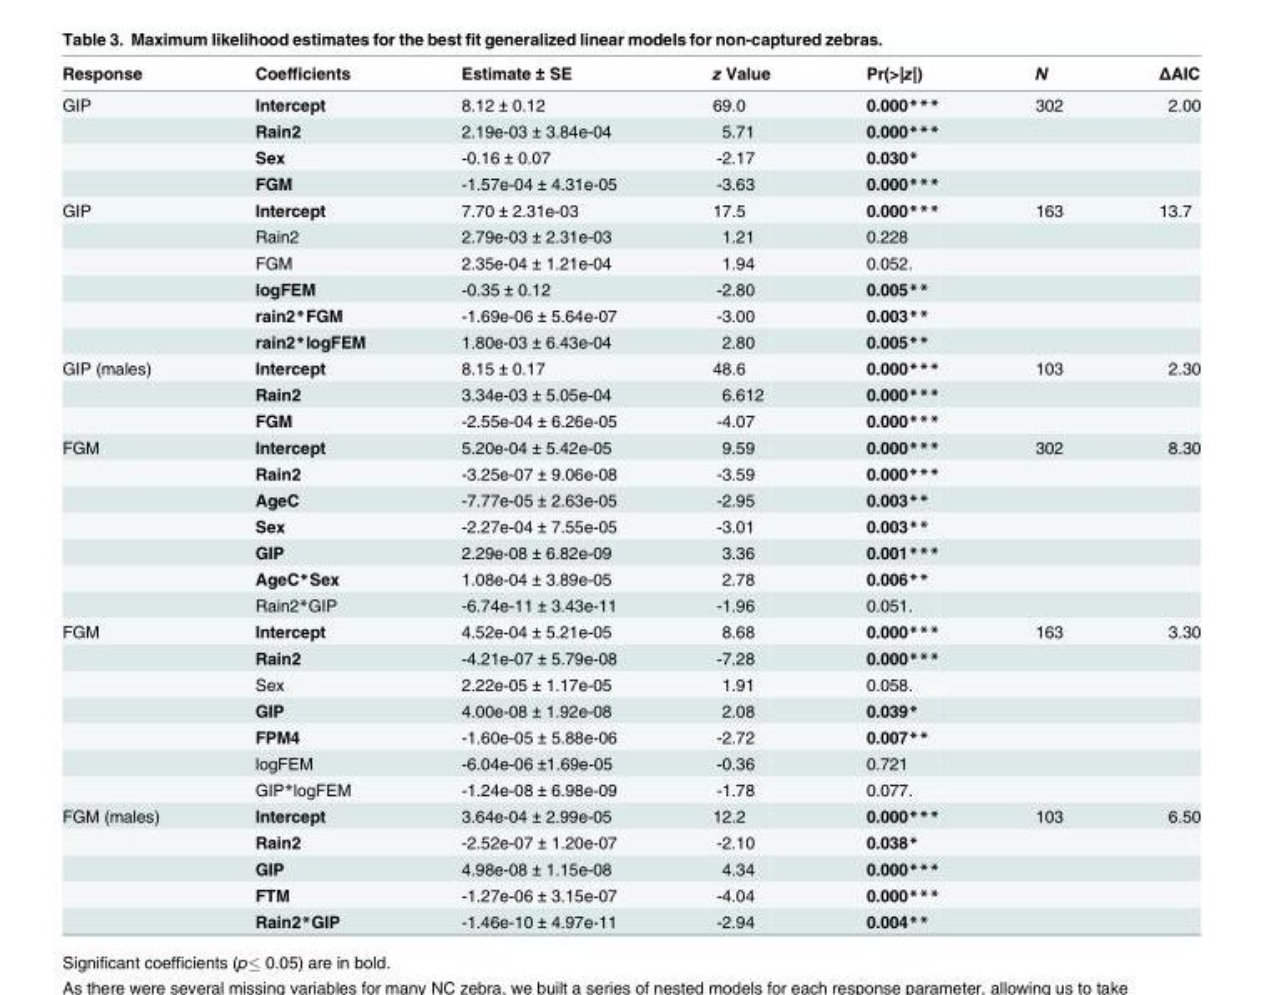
<table><thead><tr><td>Response</td><td>Coefficients</td><td>Estimate ± SE</td><td>z Value</td><td>Pr(&gt;|z|)</td><td>N</td><td>ΔAIC</td></tr></thead><tbody><tr><td rowspan="4">GIP</td><td>Intercept</td><td>8.12 ± 0.12</td><td>69.0</td><td>0.000***</td><td>302</td><td>2.00</td></tr><tr><td>Rain2</td><td>2.19e-03 ± 3.84e-04</td><td>5.71</td><td>0.000***</td><td></td><td></td></tr><tr><td>Sex</td><td>-0.16 ± 0.07</td><td>-2.17</td><td>0.030*</td><td></td><td></td></tr><tr><td>FGM</td><td>-1.57e-04 ± 4.31e-05</td><td>-3.63</td><td>0.000***</td><td></td><td></td></tr><tr><td rowspan="6">GIP</td><td>Intercept</td><td>7.70 ± 2.31e-03</td><td>17.5</td><td>0.000***</td><td>163</td><td>13.7</td></tr><tr><td>Rain2</td><td>2.79e-03 ± 2.31e-03</td><td>1.21</td><td>0.228</td><td></td><td></td></tr><tr><td>FGM</td><td>2.35e-04 ± 1.21e-04</td><td>1.94</td><td>0.052.</td><td></td><td></td></tr><tr><td>logFEM</td><td>-0.35 ± 0.12</td><td>-2.80</td><td>0.005**</td><td></td><td></td></tr><tr><td>rain2*FGM</td><td>-1.69e-06 ± 5.64e-07</td><td>-3.00</td><td>0.003**</td><td></td><td></td></tr><tr><td>rain2*logFEM</td><td>1.80e-03 ± 6.43e-04</td><td>2.80</td><td>0.005**</td><td></td><td></td></tr><tr><td rowspan="3">GIP (males)</td><td>Intercept</td><td>8.15 ± 0.17</td><td>48.6</td><td>0.000***</td><td>103</td><td>2.30</td></tr><tr><td>Rain2</td><td>3.34e-03 ± 5.05e-04</td><td>6.612</td><td>0.000***</td><td></td><td></td></tr><tr><td>FGM</td><td>-2.55e-04 ± 6.26e-05</td><td>-4.07</td><td>0.000***</td><td></td><td></td></tr><tr><td rowspan="7">FGM</td><td>Intercept</td><td>5.20e-04 ± 5.42e-05</td><td>9.59</td><td>0.000***</td><td>302</td><td>8.30</td></tr><tr><td>Rain2</td><td>-3.25e-07 ± 9.06e-08</td><td>-3.59</td><td>0.000***</td><td></td><td></td></tr><tr><td>AgeC</td><td>-7.77e-05 ± 2.63e-05</td><td>-2.95</td><td>0.003**</td><td></td><td></td></tr><tr><td>Sex</td><td>-2.27e-04 ± 7.55e-05</td><td>-3.01</td><td>0.003**</td><td></td><td></td></tr><tr><td>GIP</td><td>2.29e-08 ± 6.82e-09</td><td>3.36</td><td>0.001***</td><td></td><td></td></tr><tr><td>AgeC*Sex</td><td>1.08e-04 ± 3.89e-05</td><td>2.78</td><td>0.006**</td><td></td><td></td></tr><tr><td>Rain2*GIP</td><td>-6.74e-11 ± 3.43e-11</td><td>-1.96</td><td>0.051.</td><td></td><td></td></tr><tr><td rowspan="7">FGM</td><td>Intercept</td><td>4.52e-04 ± 5.21e-05</td><td>8.68</td><td>0.000***</td><td>163</td><td>3.30</td></tr><tr><td>Rain2</td><td>-4.21e-07 ± 5.79e-08</td><td>-7.28</td><td>0.000***</td><td></td><td></td></tr><tr><td>Sex</td><td>2.22e-05 ± 1.17e-05</td><td>1.91</td><td>0.058.</td><td></td><td></td></tr><tr><td>GIP</td><td>4.00e-08 ± 1.92e-08</td><td>2.08</td><td>0.039*</td><td></td><td></td></tr><tr><td>FPM4</td><td>-1.60e-05 ± 5.88e-06</td><td>-2.72</td><td>0.007**</td><td></td><td></td></tr><tr><td>logFEM</td><td>-6.04e-06 ±1.69e-05</td><td>-0.36</td><td>0.721</td><td></td><td></td></tr><tr><td>GIP*logFEM</td><td>-1.24e-08 ± 6.98e-09</td><td>-1.78</td><td>0.077.</td><td></td><td></td></tr><tr><td rowspan="5">FGM (males)</td><td>Intercept</td><td>3.64e-04 ± 2.99e-05</td><td>12.2</td><td>0.000***</td><td>103</td><td>6.50</td></tr><tr><td>Rain2</td><td>-2.52e-07 ± 1.20e-07</td><td>-2.10</td><td>0.038*</td><td></td><td></td></tr><tr><td>GIP</td><td>4.98e-08 ± 1.15e-08</td><td>4.34</td><td>0.000***</td><td></td><td></td></tr><tr><td>FTM</td><td>-1.27e-06 ± 3.15e-07</td><td>-4.04</td><td>0.000***</td><td></td><td></td></tr><tr><td>Rain2*GIP</td><td>-1.46e-10 ± 4.97e-11</td><td>-2.94</td><td>0.004**</td><td></td><td></td></tr></tbody></table>